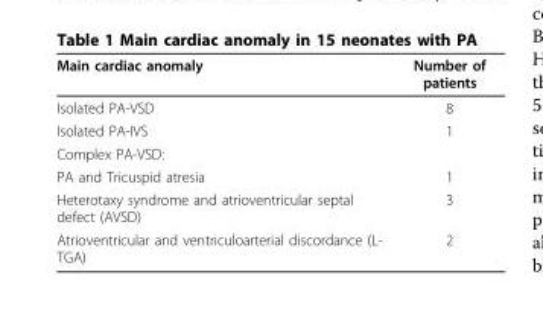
<table><thead><tr><td>Main cardiac anomaly</td><td>Number of patients</td></tr></thead><tbody><tr><td>Isolated PA-VSD</td><td>8</td></tr><tr><td>Isolated PA-IVS</td><td>1</td></tr><tr><td colspan="2">Complex PA-VSD:</td></tr><tr><td>PA and Tricuspid atresia</td><td>1</td></tr><tr><td>Heterotaxy syndrome and atrioventricular septal defect (AVSD)</td><td>3</td></tr><tr><td>Atrioventricular and ventriculoarterial discordance (L- TGA)</td><td>2</td></tr></tbody></table>